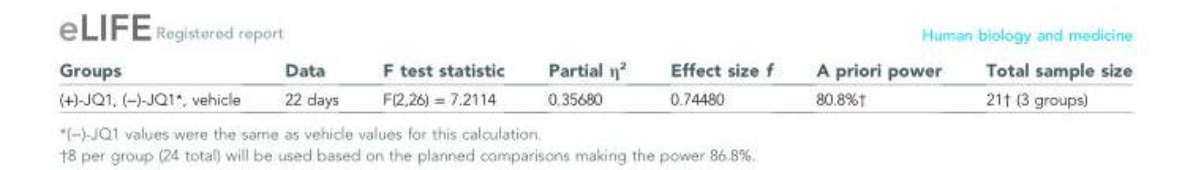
<table><thead><tr><td>Groups</td><td>Data</td><td>F test statistic</td><td>Partial η<sup>2</sup></td><td>Effect size f</td><td>A priori power</td><td>Total sample size</td></tr></thead><tbody><tr><td>(+)-JQ1, (−)-JQ1*, vehicle</td><td>22 days</td><td>F(2,26) = 7.2114</td><td>0.35680</td><td>0.74480</td><td>80.8%†</td><td>21† (3 groups)</td></tr></tbody></table>